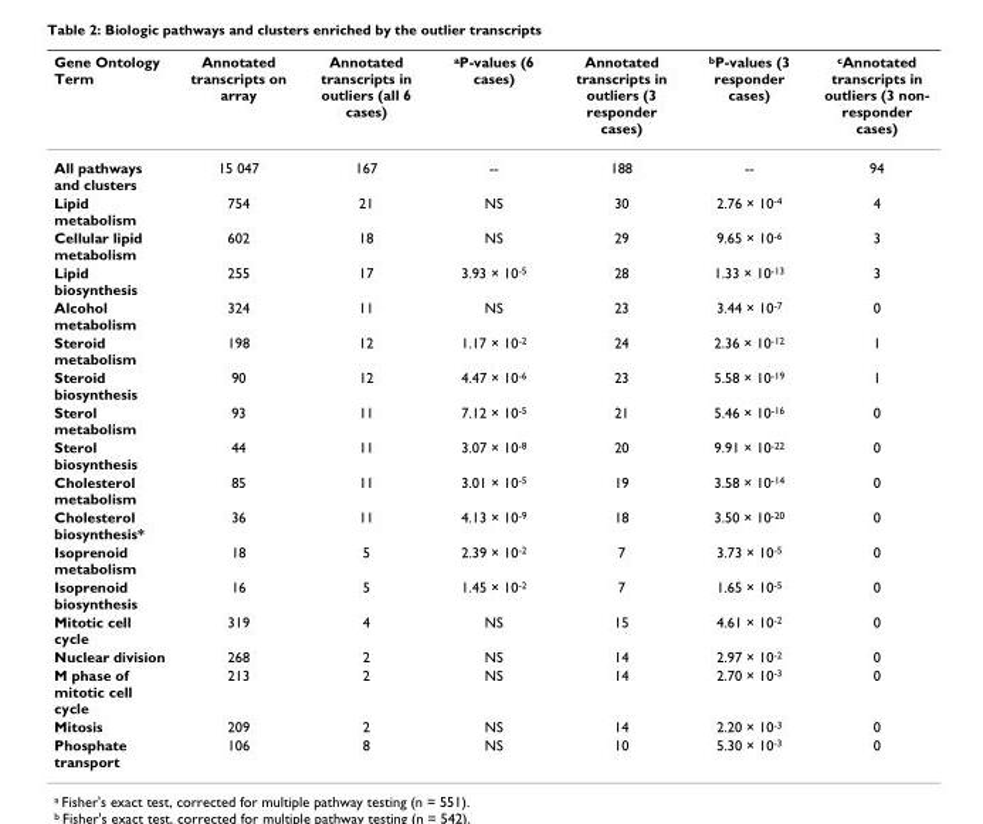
<table><thead><tr><td>Gene Ontology Term</td><td>Annotated transcripts on array</td><td>Annotated transcripts in outliers (all 6 cases)</td><td><sup>a</sup>P-values (6 cases)</td><td>Annotated transcripts in outliers (3 responder cases)</td><td><sup>b</sup>P-values (3 responder cases)</td><td><sup>c</sup>Annotated transcripts in outliers (3 non- responder cases)</td></tr></thead><tbody><tr><td>All pathways and clusters</td><td>15 047</td><td>167</td><td>--</td><td>188</td><td>--</td><td>94</td></tr><tr><td>Lipid metabolism</td><td>754</td><td>21</td><td>NS</td><td>30</td><td>2.76 × 10<sup>-4</sup></td><td>4</td></tr><tr><td>Cellular lipid metabolism</td><td>602</td><td>18</td><td>NS</td><td>29</td><td>9.65 × 10<sup>-6</sup></td><td>3</td></tr><tr><td>Lipid biosynthesis</td><td>255</td><td>17</td><td>3.93 × 10<sup>-5</sup></td><td>28</td><td>1.33 × 10<sup>-13</sup></td><td>3</td></tr><tr><td>Alcohol metabolism</td><td>324</td><td>11</td><td>NS</td><td>23</td><td>3.44 × 10<sup>-7</sup></td><td>0</td></tr><tr><td>Steroid metabolism</td><td>198</td><td>12</td><td>1.17 × 10<sup>-2</sup></td><td>24</td><td>2.36 × 10<sup>-12</sup></td><td>1</td></tr><tr><td>Steroid biosynthesis</td><td>90</td><td>12</td><td>4.47 × 10<sup>-6</sup></td><td>23</td><td>5.58 × 10<sup>-19</sup></td><td>1</td></tr><tr><td>Sterol metabolism</td><td>93</td><td>11</td><td>7.12 × 10<sup>-5</sup></td><td>21</td><td>5.46 × 10<sup>-16</sup></td><td>0</td></tr><tr><td>Sterol biosynthesis</td><td>44</td><td>11</td><td>3.07 × 10<sup>-8</sup></td><td>20</td><td>9.91 × 10<sup>-22</sup></td><td>0</td></tr><tr><td>Cholesterol metabolism</td><td>85</td><td>11</td><td>3.01 × 10<sup>-5</sup></td><td>19</td><td>3.58 × 10<sup>-14</sup></td><td>0</td></tr><tr><td>Cholesterol biosynthesis*</td><td>36</td><td>11</td><td>4.13 × 10<sup>-9</sup></td><td>18</td><td>3.50 × 10<sup>-20</sup></td><td>0</td></tr><tr><td>Isoprenoid metabolism</td><td>18</td><td>5</td><td>2.39 × 10<sup>-2</sup></td><td>7</td><td>3.73 × 10<sup>-5</sup></td><td>0</td></tr><tr><td>Isoprenoid biosynthesis</td><td>16</td><td>5</td><td>1.45 × 10<sup>-2</sup></td><td>7</td><td>1.65 × 10<sup>-5</sup></td><td>0</td></tr><tr><td>Mitotic cell cycle</td><td>319</td><td>4</td><td>NS</td><td>15</td><td>4.61 × 10<sup>-2</sup></td><td>0</td></tr><tr><td>Nuclear division</td><td>268</td><td>2</td><td>NS</td><td>14</td><td>2.97 × 10<sup>-2</sup></td><td>0</td></tr><tr><td>M phase of mitotic cell cycle</td><td>213</td><td>2</td><td>NS</td><td>14</td><td>2.70 × 10<sup>-3</sup></td><td>0</td></tr><tr><td>Mitosis</td><td>209</td><td>2</td><td>NS</td><td>14</td><td>2.20 × 10<sup>-3</sup></td><td>0</td></tr><tr><td>Phosphate transport</td><td>106</td><td>8</td><td>NS</td><td>10</td><td>5.30 × 10<sup>-3</sup></td><td>0</td></tr></tbody></table>